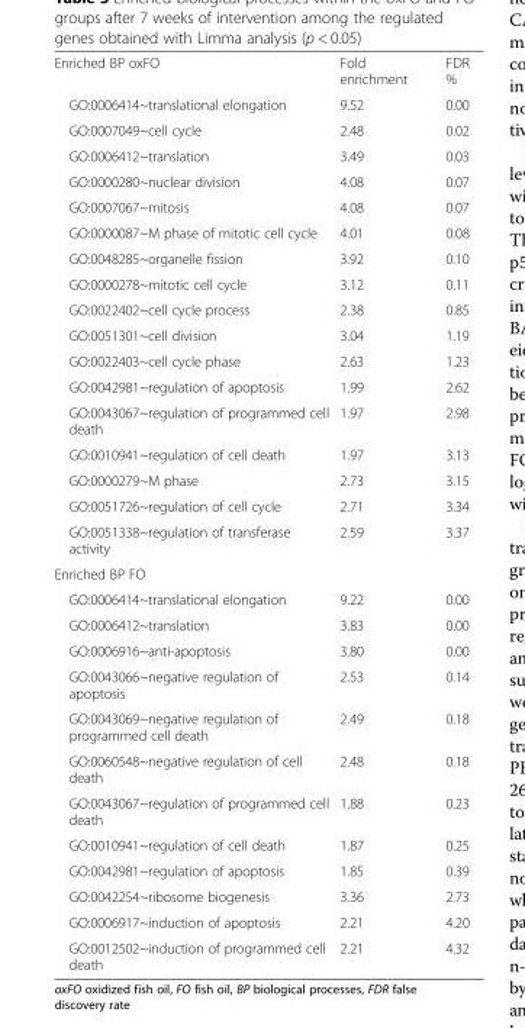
<table><tbody><tr><td>Enriched BP oxFO</td><td>Fold enrichment</td><td>FDR %</td></tr><tr><td>GO:0006414~translational elongation</td><td>9.52</td><td>0.00</td></tr><tr><td>GO:0007049~cell cycle</td><td>2.48</td><td>0.02</td></tr><tr><td>GO:0006412~translation</td><td>3.49</td><td>0.03</td></tr><tr><td>GO:0000280~nuclear division</td><td>4.08</td><td>0.07</td></tr><tr><td>GO:0007067~mitosis</td><td>4.08</td><td>0.07</td></tr><tr><td>GO:0000087~M phase of mitotic cell cycle</td><td>4.01</td><td>0.08</td></tr><tr><td>GO:0048285~organelle fission</td><td>3.92</td><td>0.10</td></tr><tr><td>GO:0000278~mitotic cell cycle</td><td>3.12</td><td>0.11</td></tr><tr><td>GO:0022402~cell cycle process</td><td>2.38</td><td>0.85</td></tr><tr><td>GO:0051301~cell division</td><td>3.04</td><td>1.19</td></tr><tr><td>GO:0022403~cell cycle phase</td><td>2.63</td><td>1.23</td></tr><tr><td>GO:0042981~regulation of apoptosis</td><td>1.99</td><td>2.62</td></tr><tr><td>GO:0043067~regulation of programmed cell death</td><td>1.97</td><td>2.98</td></tr><tr><td>GO:0010941~regulation of cell death</td><td>1.97</td><td>3.13</td></tr><tr><td>GO:0000279~M phase</td><td>2.73</td><td>3.15</td></tr><tr><td>GO:0051726~regulation of cell cycle</td><td>2.71</td><td>3.34</td></tr><tr><td>GO:0051338~regulation of transferase activity</td><td>2.59</td><td>3.37</td></tr><tr><td colspan="3">Enriched BP FO</td></tr><tr><td>GO:0006414~translational elongation</td><td>9.22</td><td>0.00</td></tr><tr><td>GO:0006412~translation</td><td>3.83</td><td>0.00</td></tr><tr><td>GO:0006916~anti-apoptosis</td><td>3.80</td><td>0.00</td></tr><tr><td>GO:0043066~negative regulation of apoptosis</td><td>2.53</td><td>0.14</td></tr><tr><td>GO:0043069~negative regulation of programmed cell death</td><td>2.49</td><td>0.18</td></tr><tr><td>GO:0060548~negative regulation of cell death</td><td>2.48</td><td>0.18</td></tr><tr><td>GO:0043067~regulation of programmed cell death</td><td>1.88</td><td>0.23</td></tr><tr><td>GO:0010941~regulation of cell death</td><td>1.87</td><td>0.25</td></tr><tr><td>GO:0042981~regulation of apoptosis</td><td>1.85</td><td>0.39</td></tr><tr><td>GO:0042254~ribosome biogenesis</td><td>3.36</td><td>2.73</td></tr><tr><td>GO:0006917~induction of apoptosis</td><td>2.21</td><td>4.20</td></tr><tr><td>GO:0012502~induction of programmed cell death</td><td>2.21</td><td>4.32</td></tr></tbody></table>